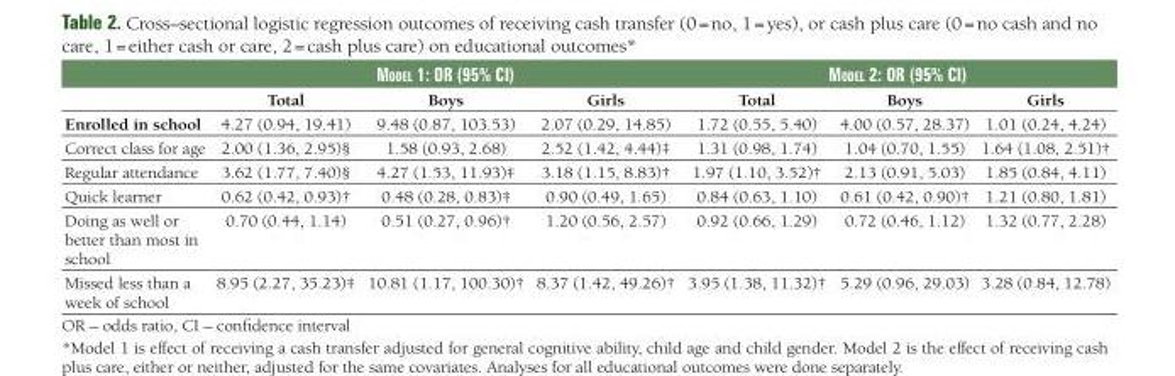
<table><thead><tr><td rowspan="2"></td><td colspan="3">MoDel 1: or (95% Ci)</td><td colspan="3">MoDel 2: or (95% Ci)</td></tr><tr><td>Total</td><td>Boys</td><td>Girls</td><td>Total</td><td>Boys</td><td>Girls</td></tr></thead><tbody><tr><td>Enrolled in school</td><td>4.27 (0.94, 19.41)</td><td>9.48 (0.87, 103.53)</td><td>2.07 (0.29, 14.85)</td><td>1.72 (0.55, 5.40)</td><td>4.00 (0.57, 28.37)</td><td>1.01 (0.24, 4.24)</td></tr><tr><td>Correct class for age</td><td>2.00 (1.36, 2.95)§</td><td>1.58 (0.93, 2.68)</td><td>2.52 (1.42, 4.44)‡</td><td>1.31 (0.98, 1.74)</td><td>1.04 (0.70, 1.55)</td><td>1.64 (1.08, 2.51)†</td></tr><tr><td>Regular attendance</td><td>3.62 (1.77, 7.40)§</td><td>4.27 (1.53, 11.93)‡</td><td>3.18 (1.15, 8.83)†</td><td>1.97 (1.10, 3.52)†</td><td>2.13 (0.91, 5.03)</td><td>1.85 (0.84, 4.11)</td></tr><tr><td>Quick learner</td><td>0.62 (0.42, 0.93)†</td><td>0.48 (0.28, 0.83)‡</td><td>0.90 (0.49, 1.65)</td><td>0.84 (0.63, 1.10)</td><td>0.61 (0.42, 0.90)†</td><td>1.21 (0.80, 1.81)</td></tr><tr><td>Doing as well or better than most in school</td><td>0.70 (0.44, 1.14)</td><td>0.51 (0.27, 0.96)†</td><td>1.20 (0.56, 2.57)</td><td>0.92 (0.66, 1.29)</td><td>0.72 (0.46, 1.12)</td><td>1.32 (0.77, 2.28)</td></tr><tr><td>Missed less than a week of school</td><td>8.95 (2.27, 35.23)‡</td><td>10.81 (1.17, 100.30)†</td><td>8.37 (1.42, 49.26)†</td><td>3.95 (1.38, 11.32)†</td><td>5.29 (0.96, 29.03)</td><td>3.28 (0.84, 12.78)</td></tr></tbody></table>